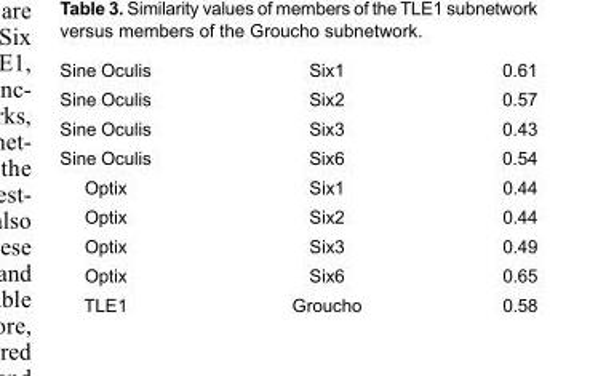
<table><tbody><tr><td>Sine Oculis</td><td>Six1</td><td>0.61</td></tr><tr><td>Sine Oculis</td><td>Six2</td><td>0.57</td></tr><tr><td>Sine Oculis</td><td>Six3</td><td>0.43</td></tr><tr><td>Sine Oculis</td><td>Six6</td><td>0.54</td></tr><tr><td>Optix</td><td>Six1</td><td>0.44</td></tr><tr><td>Optix</td><td>Six2</td><td>0.44</td></tr><tr><td>Optix</td><td>Six3</td><td>0.49</td></tr><tr><td>Optix</td><td>Six6</td><td>0.65</td></tr><tr><td>TLE1</td><td>Groucho</td><td>0.58</td></tr></tbody></table>